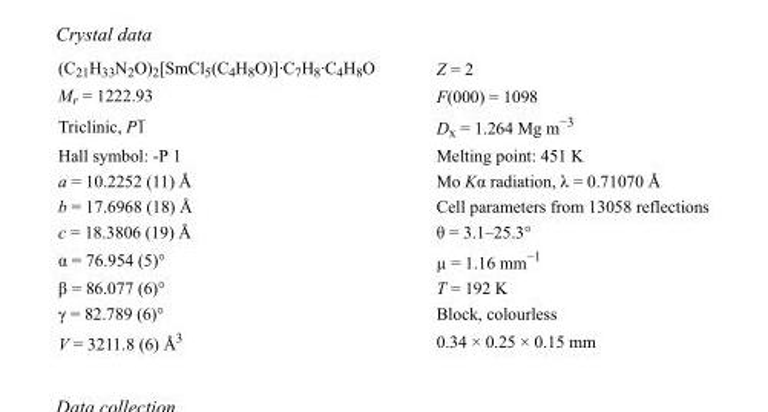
<table><tbody><tr><td>(C<sub>21</sub>H<sub>33</sub>N<sub>2</sub>O)<sub>2</sub>[SmCl<sub>5</sub>(C<sub>4</sub>H<sub>8</sub>O)]·C<sub>7</sub>H<sub>8</sub>·C<sub>4</sub>H<sub>8</sub>O</td><td>Z = 2</td></tr><tr><td>M<sub>r</sub> = 1222.93</td><td>F(000) = 1098</td></tr><tr><td>Triclinic, P1</td><td>D<sub>x</sub> = 1.264 Mg m<sup>−3</sup></td></tr><tr><td>Hall symbol: -P 1</td><td>Melting point: 451 K</td></tr><tr><td>a = 10.2252 (11) Å</td><td>Mo Kα radiation, λ = 0.71070 Å</td></tr><tr><td>b = 17.6968 (18) Å</td><td>Cell parameters from 13058 reflections</td></tr><tr><td>c = 18.3806 (19) Å</td><td>θ = 3.1–25.3°</td></tr><tr><td>α = 76.954 (5)°</td><td>µ = 1.16 mm<sup>−1</sup></td></tr><tr><td>β = 86.077 (6)°</td><td>T = 192 K</td></tr><tr><td>γ = 82.789 (6)°</td><td>Block, colourless</td></tr><tr><td>V = 3211.8 (6) Å<sup>3</sup></td><td>0.34 × 0.25 × 0.15 mm</td></tr></tbody></table>